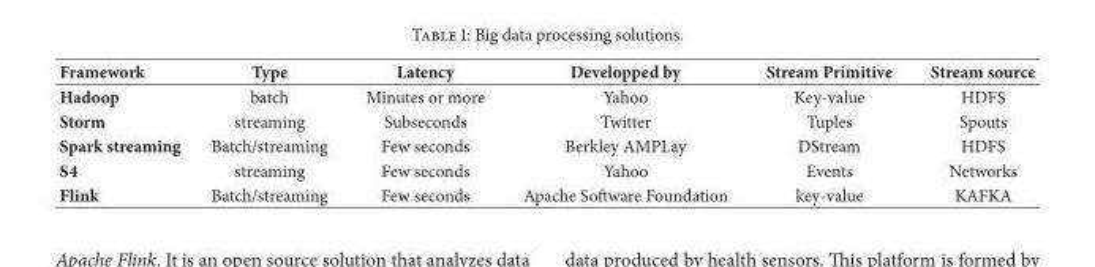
<table><thead><tr><td>Framework</td><td>Type</td><td>Latency</td><td>Developped by</td><td>Stream Primitive</td><td>Stream source</td></tr></thead><tbody><tr><td>Hadoop</td><td>batch</td><td>Minutes or more</td><td>Yahoo</td><td>Key-value</td><td>HDFS</td></tr><tr><td>Storm</td><td>streaming</td><td>Subseconds</td><td>Twitter</td><td>Tuples</td><td>Spouts</td></tr><tr><td>Spark streaming</td><td>Batch/streaming</td><td>Few seconds</td><td>Berkley AMPLay</td><td>DStream</td><td>HDFS</td></tr><tr><td>S4</td><td>streaming</td><td>Few seconds</td><td>Yahoo</td><td>Events</td><td>Networks</td></tr><tr><td>Flink</td><td>Batch/streaming</td><td>Few seconds</td><td>Apache Software Foundation</td><td>key-value</td><td>KAFKA</td></tr></tbody></table>